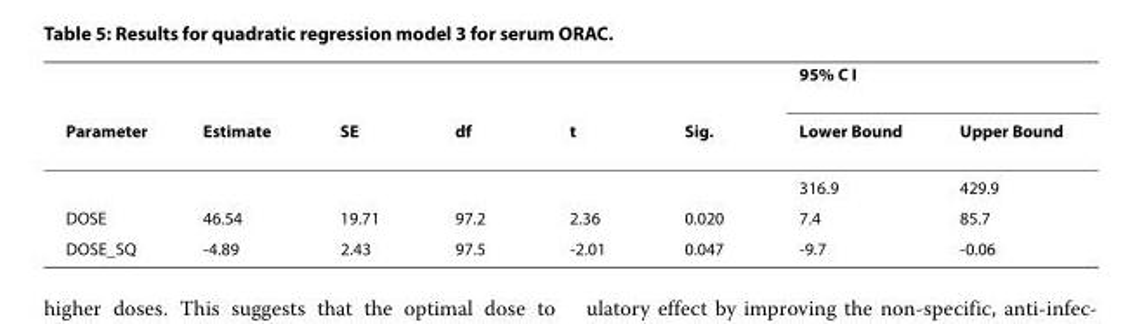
<table><thead><tr><td rowspan="2">Parameter</td><td rowspan="2">Estimate</td><td rowspan="2">SE</td><td rowspan="2">df</td><td rowspan="2">t</td><td rowspan="2">Sig.</td><td colspan="2">95% C I</td></tr><tr><td>Lower Bound</td><td>Upper Bound</td></tr></thead><tbody><tr><td></td><td></td><td></td><td></td><td></td><td></td><td>316.9</td><td>429.9</td></tr><tr><td>DOSE</td><td>46.54</td><td>19.71</td><td>97.2</td><td>2.36</td><td>0.020</td><td>7.4</td><td>85.7</td></tr><tr><td>DOSE_SQ</td><td>-4.89</td><td>2.43</td><td>97.5</td><td>-2.01</td><td>0.047</td><td>-9.7</td><td>-0.06</td></tr></tbody></table>